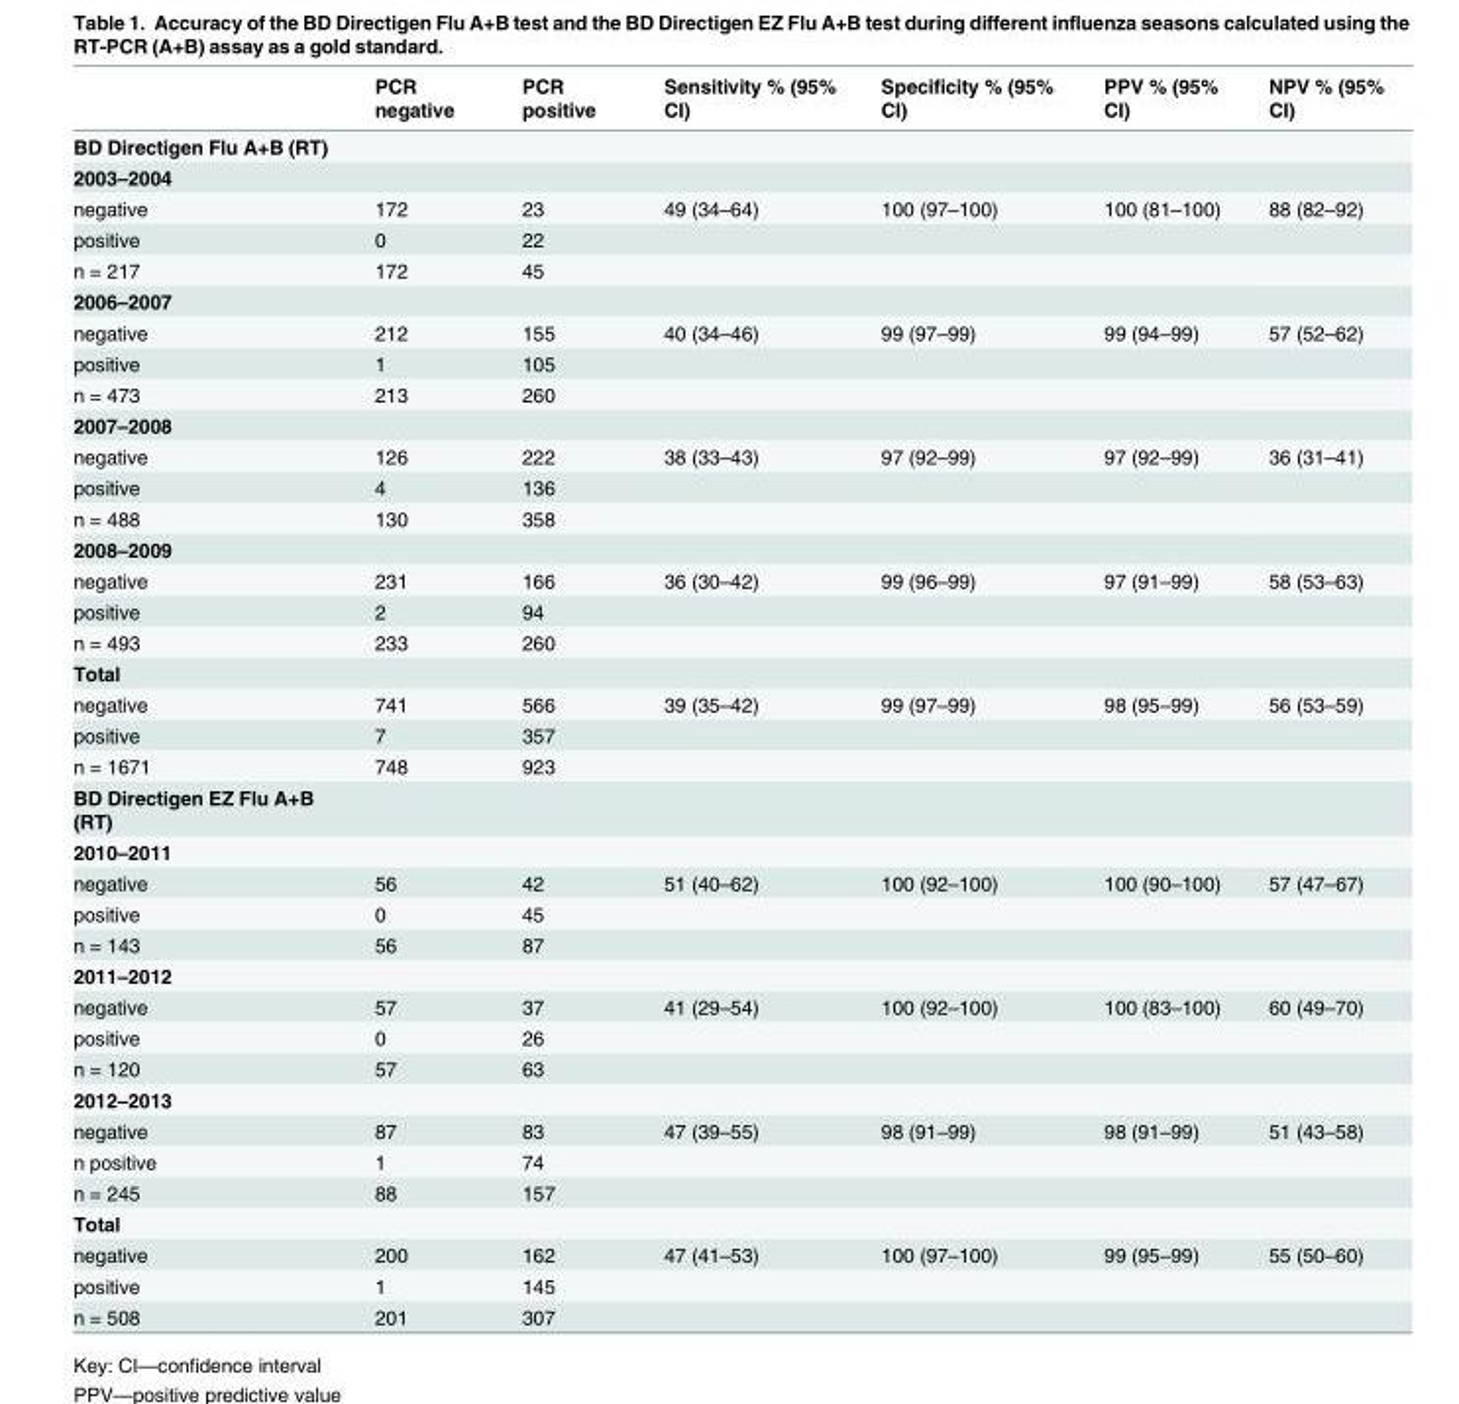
<table><thead><tr><td></td><td>PCR negative</td><td>PCR positive</td><td>Sensitivity % (95% CI)</td><td>Specificity % (95% CI)</td><td>PPV % (95% CI)</td><td>NPV % (95% CI)</td></tr></thead><tbody><tr><td colspan="7">BD Directigen Flu A+B (RT)</td></tr><tr><td colspan="7">2003–2004</td></tr><tr><td>negative</td><td>172</td><td>23</td><td>49 (34–64)</td><td>100 (97–100)</td><td>100 (81–100)</td><td>88 (82–92)</td></tr><tr><td>positive</td><td>0</td><td>22</td><td></td><td></td><td></td><td></td></tr><tr><td>n = 217</td><td>172</td><td>45</td><td></td><td></td><td></td><td></td></tr><tr><td colspan="7">2006–2007</td></tr><tr><td>negative</td><td>212</td><td>155</td><td>40 (34–46)</td><td>99 (97–99)</td><td>99 (94–99)</td><td>57 (52–62)</td></tr><tr><td>positive</td><td>1</td><td>105</td><td></td><td></td><td></td><td></td></tr><tr><td>n = 473</td><td>213</td><td>260</td><td></td><td></td><td></td><td></td></tr><tr><td colspan="7">2007–2008</td></tr><tr><td>negative</td><td>126</td><td>222</td><td>38 (33–43)</td><td>97 (92–99)</td><td>97 (92–99)</td><td>36 (31–41)</td></tr><tr><td>positive</td><td>4</td><td>136</td><td></td><td></td><td></td><td></td></tr><tr><td>n = 488</td><td>130</td><td>358</td><td></td><td></td><td></td><td></td></tr><tr><td colspan="7">2008–2009</td></tr><tr><td>negative</td><td>231</td><td>166</td><td>36 (30–42)</td><td>99 (96–99)</td><td>97 (91–99)</td><td>58 (53–63)</td></tr><tr><td>positive</td><td>2</td><td>94</td><td></td><td></td><td></td><td></td></tr><tr><td>n = 493</td><td>233</td><td>260</td><td></td><td></td><td></td><td></td></tr><tr><td colspan="7">Total</td></tr><tr><td>negative</td><td>741</td><td>566</td><td>39 (35–42)</td><td>99 (97–99)</td><td>98 (95–99)</td><td>56 (53–59)</td></tr><tr><td>positive</td><td>7</td><td>357</td><td></td><td></td><td></td><td></td></tr><tr><td>n = 1671</td><td>748</td><td>923</td><td></td><td></td><td></td><td></td></tr><tr><td colspan="7">BD Directigen EZ Flu A+B (RT)</td></tr><tr><td colspan="7">2010–2011</td></tr><tr><td>negative</td><td>56</td><td>42</td><td>51 (40–62)</td><td>100 (92–100)</td><td>100 (90–100)</td><td>57 (47–67)</td></tr><tr><td>positive</td><td>0</td><td>45</td><td></td><td></td><td></td><td></td></tr><tr><td>n = 143</td><td>56</td><td>87</td><td></td><td></td><td></td><td></td></tr><tr><td colspan="7">2011–2012</td></tr><tr><td>negative</td><td>57</td><td>37</td><td>41 (29–54)</td><td>100 (92–100)</td><td>100 (83–100)</td><td>60 (49–70)</td></tr><tr><td>positive</td><td>0</td><td>26</td><td></td><td></td><td></td><td></td></tr><tr><td>n = 120</td><td>57</td><td>63</td><td></td><td></td><td></td><td></td></tr><tr><td colspan="7">2012–2013</td></tr><tr><td>negative</td><td>87</td><td>83</td><td>47 (39–55)</td><td>98 (91–99)</td><td>98 (91–99)</td><td>51 (43–58)</td></tr><tr><td>n positive</td><td>1</td><td>74</td><td></td><td></td><td></td><td></td></tr><tr><td>n = 245</td><td>88</td><td>157</td><td></td><td></td><td></td><td></td></tr><tr><td colspan="7">Total</td></tr><tr><td>negative</td><td>200</td><td>162</td><td>47 (41–53)</td><td>100 (97–100)</td><td>99 (95–99)</td><td>55 (50–60)</td></tr><tr><td>positive</td><td>1</td><td>145</td><td></td><td></td><td></td><td></td></tr><tr><td>n = 508</td><td>201</td><td>307</td><td></td><td></td><td></td><td></td></tr></tbody></table>